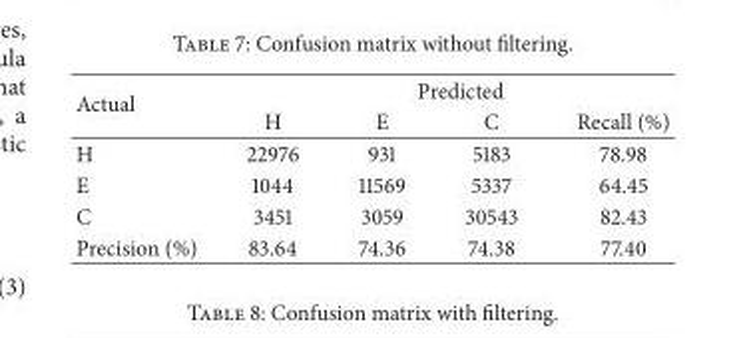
<table><thead><tr><td rowspan="2">Actual</td><td colspan="4">Predicted</td></tr><tr><td>H</td><td>E</td><td>C</td><td>Recall (%)</td></tr></thead><tbody><tr><td>H</td><td>22976</td><td>931</td><td>5183</td><td>78.98</td></tr><tr><td>E</td><td>1044</td><td>11569</td><td>5337</td><td>64.45</td></tr><tr><td>C</td><td>3451</td><td>3059</td><td>30543</td><td>82.43</td></tr><tr><td>Precision (%)</td><td>83.64</td><td>74.36</td><td>74.38</td><td>77.40</td></tr></tbody></table>